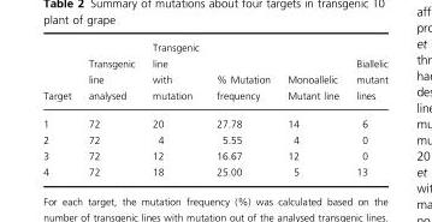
<table><thead><tr><td>Target</td><td>Transgenic line analysed</td><td>Transgenic line with mutation</td><td>% Mutation frequency</td><td>Monoallelic Mutant line</td><td>Biallelic mutant lines</td></tr></thead><tbody><tr><td>1</td><td>72</td><td>20</td><td>27.78</td><td>14</td><td>6</td></tr><tr><td>2</td><td>72</td><td>4</td><td>5.55</td><td>4</td><td>0</td></tr><tr><td>3</td><td>72</td><td>12</td><td>16.67</td><td>12</td><td>0</td></tr><tr><td>4</td><td>72</td><td>18</td><td>25.00</td><td>5</td><td>13</td></tr></tbody></table>